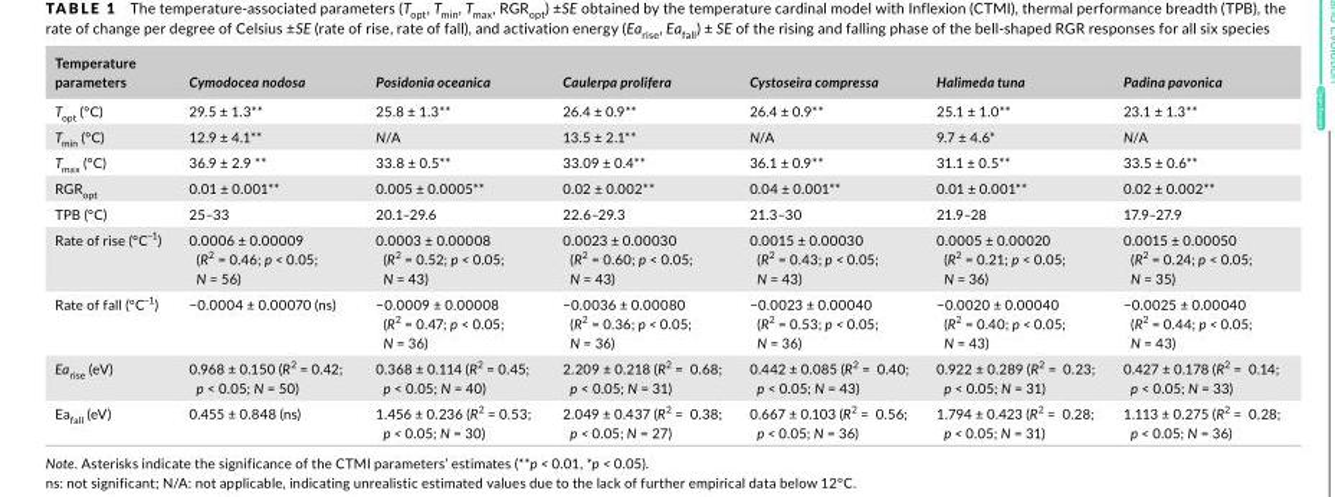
<table><thead><tr><td>Temperature parameters</td><td>Cymodocea nodosa</td><td>Posidonia oceanica</td><td>Caulerpa prolifera</td><td>Cystoseira compressa</td><td>Halimeda tuna</td><td>Padina pavonica</td></tr></thead><tbody><tr><td>T<sub>opt</sub> (°C)</td><td>29.5 ± 1.3**</td><td>25.8 ± 1.3**</td><td>26.4 ± 0.9**</td><td>26.4 ± 0.9**</td><td>25.1 ± 1.0**</td><td>23.1 ± 1.3**</td></tr><tr><td>T<sub>min</sub> (°C)</td><td>12.9 ± 4.1**</td><td>N/A</td><td>13.5 ± 2.1**</td><td>N/A</td><td>9.7 ± 4.6*</td><td>N/A</td></tr><tr><td>T<sub>max</sub> (°C)</td><td>36.9 ± 2.9 **</td><td>33.8 ± 0.5**</td><td>33.09 ± 0.4**</td><td>36.1 ± 0.9**</td><td>31.1 ± 0.5**</td><td>33.5 ± 0.6**</td></tr><tr><td>RGR<sub>opt</sub></td><td>0.01 ± 0.001**</td><td>0.005 ± 0.0005**</td><td>0.02 ± 0.002**</td><td>0.04 ± 0.001**</td><td>0.01 ± 0.001**</td><td>0.02 ± 0.002**</td></tr><tr><td>TPB (°C)</td><td>25–33</td><td>20.1–29.6</td><td>22.6–29.3</td><td>21.3–30</td><td>21.9–28</td><td>17.9–27.9</td></tr><tr><td>Rate of rise (°C<sup>−1</sup>)</td><td>0.0006 ± 0.00009 (R<sup>2</sup> = 0.46; p &lt; 0.05; N = 56)</td><td>0.0003 ± 0.00008 (R<sup>2</sup> = 0.52; p &lt; 0.05; N = 43)</td><td>0.0023 ± 0.00030 (R<sup>2</sup> = 0.60; p &lt; 0.05; N = 43)</td><td>0.0015 ± 0.00030 (R<sup>2</sup> = 0.43; p &lt; 0.05; N = 43)</td><td>0.0005 ± 0.00020 (R<sup>2</sup> = 0.21; p &lt; 0.05; N = 36)</td><td>0.0015 ± 0.00050 (R<sup>2</sup> = 0.24; p &lt; 0.05; N = 35)</td></tr><tr><td>Rate of fall (°C<sup>−1</sup>)</td><td>−0.0004 ± 0.00070 (ns)</td><td>−0.0009 ± 0.00008 (R<sup>2</sup> = 0.47; p &lt; 0.05; N = 36)</td><td>−0.0036 ± 0.00080 (R<sup>2</sup> = 0.36; p &lt; 0.05; N = 36)</td><td>−0.0023 ± 0.00040 (R<sup>2</sup> = 0.53; p &lt; 0.05; N = 36)</td><td>−0.0020 ± 0.00040 (R<sup>2</sup> = 0.40; p &lt; 0.05; N = 43)</td><td>−0.0025 ± 0.00040 (R<sup>2</sup> = 0.44; p &lt; 0.05; N = 43)</td></tr><tr><td>Ea<sub>rise</sub> (eV)</td><td>0.968 ± 0.150 (R<sup>2</sup> = 0.42; p &lt; 0.05; N = 50)</td><td>0.368 ± 0.114 (R<sup>2</sup> = 0.45; p &lt; 0.05; N = 40)</td><td>2.209 ± 0.218 (R<sup>2</sup> = 0.68; p &lt; 0.05; N = 31)</td><td>0.442 ± 0.085 (R<sup>2</sup> = 0.40; p &lt; 0.05; N = 43)</td><td>0.922 ± 0.289 (R<sup>2</sup> = 0.23; p &lt; 0.05; N = 31)</td><td>0.427 ± 0.178 (R<sup>2</sup> = 0.14; p &lt; 0.05; N = 33)</td></tr><tr><td>Ea<sub>fall</sub> (eV)</td><td>0.455 ± 0.848 (ns)</td><td>1.456 ± 0.236 (R<sup>2</sup> = 0.53; p &lt; 0.05; N = 30)</td><td>2.049 ± 0.437 (R<sup>2</sup> = 0.38; p &lt; 0.05; N = 27)</td><td>0.667 ± 0.103 (R<sup>2</sup> = 0.56; p &lt; 0.05; N = 36)</td><td>1.794 ± 0.423 (R<sup>2</sup> = 0.28; p &lt; 0.05; N = 31)</td><td>1.113 ± 0.275 (R<sup>2</sup> = 0.28; p &lt; 0.05; N = 36)</td></tr></tbody></table>